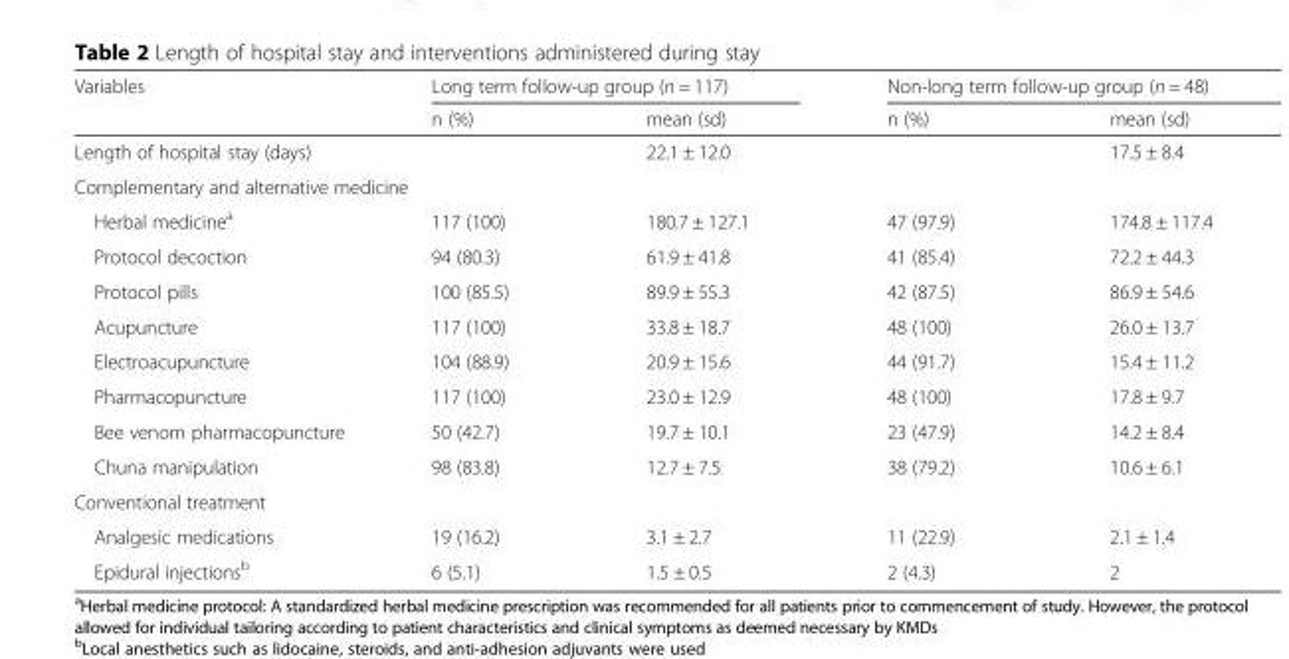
<table><thead><tr><td rowspan="2">Variables</td><td colspan="2">Long term follow-up group (n = 117)</td><td colspan="2">Non-long term follow-up group (n = 48)</td></tr><tr><td>n (%)</td><td>mean (sd)</td><td>n (%)</td><td>mean (sd)</td></tr></thead><tbody><tr><td>Length of hospital stay (days)</td><td></td><td>22.1 ± 12.0</td><td></td><td>17.5 ± 8.4</td></tr><tr><td colspan="5">Complementary and alternative medicine</td></tr><tr><td>Herbal medicine<sup>a</sup></td><td>117 (100)</td><td>180.7 ± 127.1</td><td>47 (97.9)</td><td>174.8 ± 117.4</td></tr><tr><td>Protocol decoction</td><td>94 (80.3)</td><td>61.9 ± 41.8</td><td>41 (85.4)</td><td>72.2 ± 44.3</td></tr><tr><td>Protocol pills</td><td>100 (85.5)</td><td>89.9 ± 55.3</td><td>42 (87.5)</td><td>86.9 ± 54.6</td></tr><tr><td>Acupuncture</td><td>117 (100)</td><td>33.8 ± 18.7</td><td>48 (100)</td><td>26.0 ± 13.7</td></tr><tr><td>Electroacupuncture</td><td>104 (88.9)</td><td>20.9 ± 15.6</td><td>44 (91.7)</td><td>15.4 ± 11.2</td></tr><tr><td>Pharmacopuncture</td><td>117 (100)</td><td>23.0 ± 12.9</td><td>48 (100)</td><td>17.8 ± 9.7</td></tr><tr><td>Bee venom pharmacopuncture</td><td>50 (42.7)</td><td>19.7 ± 10.1</td><td>23 (47.9)</td><td>14.2 ± 8.4</td></tr><tr><td>Chuna manipulation</td><td>98 (83.8)</td><td>12.7 ± 7.5</td><td>38 (79.2)</td><td>10.6 ± 6.1</td></tr><tr><td colspan="5">Conventional treatment</td></tr><tr><td>Analgesic medications</td><td>19 (16.2)</td><td>3.1 ± 2.7</td><td>11 (22.9)</td><td>2.1 ± 1.4</td></tr><tr><td>Epidural injections<sup>b</sup></td><td>6 (5.1)</td><td>1.5 ± 0.5</td><td>2 (4.3)</td><td>2</td></tr></tbody></table>